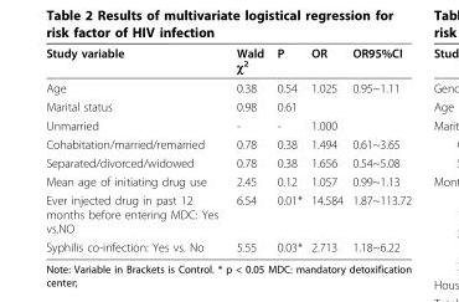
<table><thead><tr><td>Study variable</td><td>Wald χ<sup>2</sup></td><td>P</td><td>OR</td><td>OR95%CI</td></tr></thead><tbody><tr><td>Age</td><td>0.38</td><td>0.54</td><td>1.025</td><td>0.95~1.11</td></tr><tr><td>Marital status</td><td>0.98</td><td>0.61</td><td></td><td></td></tr><tr><td>Unmarried</td><td>-</td><td>-</td><td>1.000</td><td></td></tr><tr><td>Cohabitation/married/remarried</td><td>0.78</td><td>0.38</td><td>1.494</td><td>0.61~3.65</td></tr><tr><td>Separated/divorced/widowed</td><td>0.78</td><td>0.38</td><td>1.656</td><td>0.54~5.08</td></tr><tr><td>Mean age of initiating drug use</td><td>2.45</td><td>0.12</td><td>1.057</td><td>0.99~1.13</td></tr><tr><td>Ever injected drug in past 12 months before entering MDC: Yes vs.NO</td><td>6.54</td><td>0.01*</td><td>14.584</td><td>1.87~113.72</td></tr><tr><td>Syphilis co-infection: Yes vs. No</td><td>5.55</td><td>0.03*</td><td>2.713</td><td>1.18~6.22</td></tr></tbody></table>